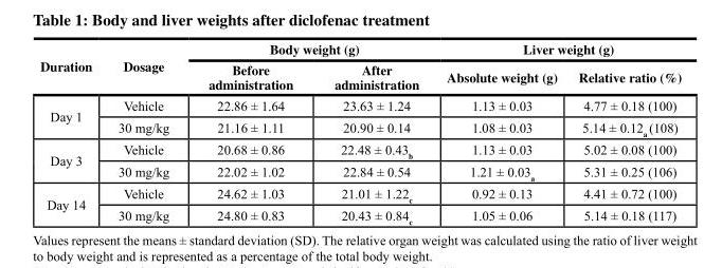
<table><thead><tr><td rowspan="2">Duration</td><td rowspan="2">Dosage</td><td colspan="2">Body weight (g)</td><td colspan="2">Liver weight (g)</td></tr><tr><td>Before administration</td><td>After administration</td><td>Absolute weight (g)</td><td>Relative ratio (%)</td></tr></thead><tbody><tr><td rowspan="2">Day 1</td><td>Vehicle</td><td>22.86 ± 1.64</td><td>23.63 ± 1.24</td><td>1.13 ± 0.03</td><td>4.77 ± 0.18 (100)</td></tr><tr><td>30 mg/kg</td><td>21.16 ± 1.11</td><td>20.90 ± 0.14</td><td>1.08 ± 0.03</td><td>5.14 ± 0.12<sub>a</sub> (108)</td></tr><tr><td rowspan="2">Day 3</td><td>Vehicle</td><td>20.68 ± 0.86</td><td>22.48 ± 0.43<sub>b</sub></td><td>1.13 ± 0.03</td><td>5.02 ± 0.08 (100)</td></tr><tr><td>30 mg/kg</td><td>22.02 ± 1.02</td><td>22.84 ± 0.54</td><td>1.21 ± 0.03<sub>a</sub></td><td>5.31 ± 0.25 (106)</td></tr><tr><td rowspan="2">Day 14</td><td>Vehicle</td><td>24.62 ± 1.03</td><td>21.01 ± 1.22<sub>c</sub></td><td>0.92 ± 0.13</td><td>4.41 ± 0.72 (100)</td></tr><tr><td>30 mg/kg</td><td>24.80 ± 0.83</td><td>20.43 ± 0.84<sub>c</sub></td><td>1.05 ± 0.06</td><td>5.14 ± 0.18 (117)</td></tr></tbody></table>